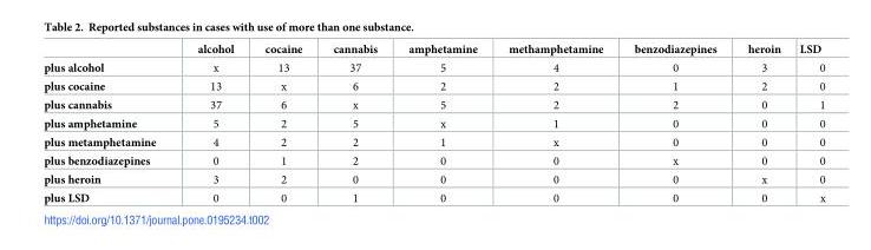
<table><thead><tr><td></td><td>alcohol</td><td>cocaine</td><td>cannabis</td><td>amphetamine</td><td>methamphetamine</td><td>benzodiazepines</td><td>heroin</td><td>LSD</td></tr></thead><tbody><tr><td>plus alcohol</td><td>x</td><td>13</td><td>37</td><td>5</td><td>4</td><td>0</td><td>3</td><td>0</td></tr><tr><td>plus cocaine</td><td>13</td><td>x</td><td>6</td><td>2</td><td>2</td><td>1</td><td>2</td><td>0</td></tr><tr><td>plus cannabis</td><td>37</td><td>6</td><td>x</td><td>5</td><td>2</td><td>2</td><td>0</td><td>1</td></tr><tr><td>plus amphetamine</td><td>5</td><td>2</td><td>5</td><td>x</td><td>1</td><td>0</td><td>0</td><td>0</td></tr><tr><td>plus metamphetamine</td><td>4</td><td>2</td><td>2</td><td>1</td><td>x</td><td>0</td><td>0</td><td>0</td></tr><tr><td>plus benzodiazepines</td><td>0</td><td>1</td><td>2</td><td>0</td><td>0</td><td>x</td><td>0</td><td>0</td></tr><tr><td>plus heroin</td><td>3</td><td>2</td><td>0</td><td>0</td><td>0</td><td>0</td><td>x</td><td>0</td></tr><tr><td>plus LSD</td><td>0</td><td>0</td><td>1</td><td>0</td><td>0</td><td>0</td><td>0</td><td>x</td></tr></tbody></table>